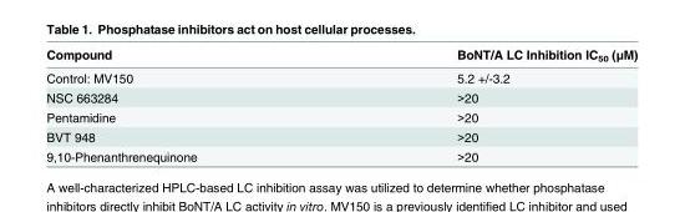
<table><thead><tr><td>Compound</td><td>BoNT/A LC Inhibition IC<sub>50</sub> (μM)</td></tr></thead><tbody><tr><td>Control: MV150</td><td>5.2 +/-3.2</td></tr><tr><td>NSC 663284</td><td>&gt;20</td></tr><tr><td>Pentamidine</td><td>&gt;20</td></tr><tr><td>BVT 948</td><td>&gt;20</td></tr><tr><td>9,10-Phenanthrenequinone</td><td>&gt;20</td></tr></tbody></table>